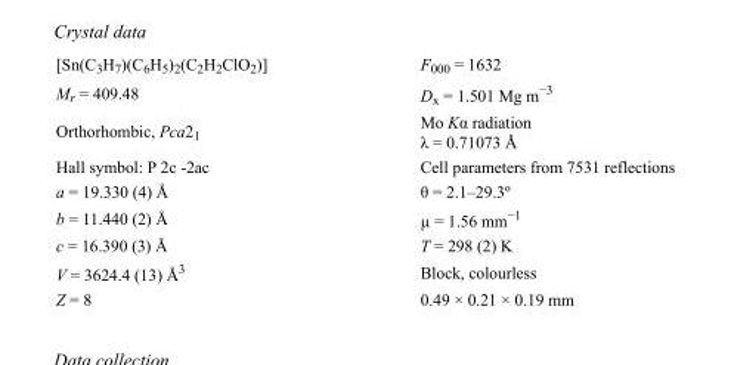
<table><tbody><tr><td>[Sn(C<sub>3</sub>H<sub>7</sub>)(C<sub>6</sub>H<sub>5</sub>)<sub>2</sub>(C<sub>2</sub>H<sub>2</sub>ClO<sub>2</sub>)]</td><td>F<sub>000</sub> = 1632</td></tr><tr><td>M<sub>r</sub> = 409.48</td><td>D<sub>x</sub> = 1.501 Mg m<sup>−3</sup></td></tr><tr><td>Orthorhombic, Pca2<sub>1</sub></td><td>Mo Kα radiation λ = 0.71073 Å</td></tr><tr><td>Hall symbol: P 2c -2ac</td><td>Cell parameters from 7531 reflections</td></tr><tr><td>a = 19.330 (4) Å</td><td>θ = 2.1–29.3º</td></tr><tr><td>b = 11.440 (2) Å</td><td>µ = 1.56 mm<sup>−1</sup></td></tr><tr><td>c = 16.390 (3) Å</td><td>T = 298 (2) K</td></tr><tr><td>V = 3624.4 (13) Å<sup>3</sup></td><td>Block, colourless</td></tr><tr><td>Z = 8</td><td>0.49 × 0.21 × 0.19 mm</td></tr></tbody></table>